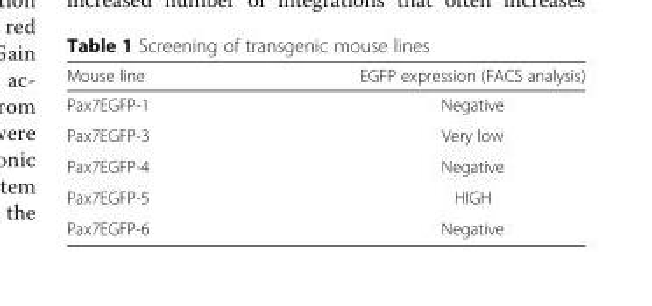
<table><thead><tr><td>Mouse line</td><td>EGFP expression (FACS analysis)</td></tr></thead><tbody><tr><td>Pax7EGFP-1</td><td>Negative</td></tr><tr><td>Pax7EGFP-3</td><td>Very low</td></tr><tr><td>Pax7EGFP-4</td><td>Negative</td></tr><tr><td>Pax7EGFP-5</td><td>HIGH</td></tr><tr><td>Pax7EGFP-6</td><td>Negative</td></tr></tbody></table>